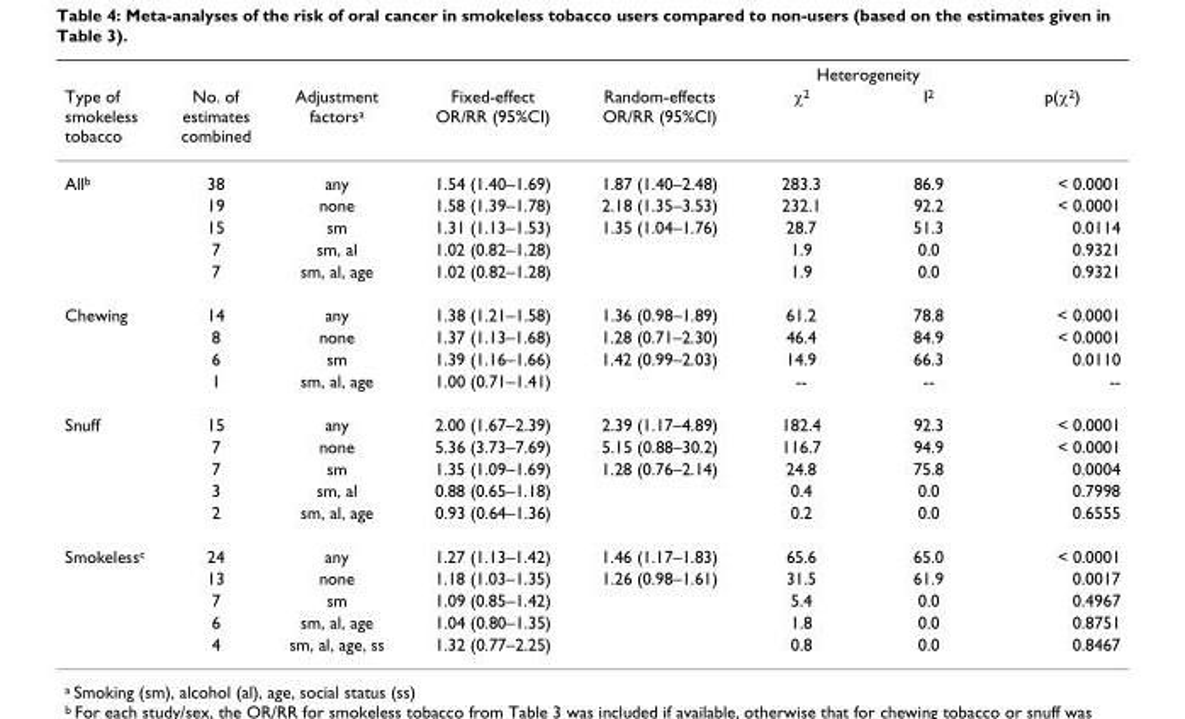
<table><thead><tr><td rowspan="2">Type of smokeless tobacco</td><td rowspan="2">No. of estimates combined</td><td rowspan="2">Adjustment factors<sup>a</sup></td><td rowspan="2">Fixed-effect OR/RR (95%CI)</td><td rowspan="2">Random-effects OR/RR (95%CI)</td><td colspan="2">Heterogeneity</td><td rowspan="2">p(χ<sup>2</sup>)</td></tr><tr><td>χ<sup>2</sup></td><td>I<sup>2</sup></td></tr></thead><tbody><tr><td rowspan="5">All<sup>b</sup></td><td>38</td><td>any</td><td>1.54 (1.40–1.69)</td><td>1.87 (1.40–2.48)</td><td>283.3</td><td>86.9</td><td>&lt; 0.0001</td></tr><tr><td>19</td><td>none</td><td>1.58 (1.39–1.78)</td><td>2.18 (1.35–3.53)</td><td>232.1</td><td>92.2</td><td>&lt; 0.0001</td></tr><tr><td>15</td><td>sm</td><td>1.31 (1.13–1.53)</td><td>1.35 (1.04–1.76)</td><td>28.7</td><td>51.3</td><td>0.0114</td></tr><tr><td>7</td><td>sm, al</td><td>1.02 (0.82–1.28)</td><td></td><td>1.9</td><td>0.0</td><td>0.9321</td></tr><tr><td>7</td><td>sm, al, age</td><td>1.02 (0.82–1.28)</td><td></td><td>1.9</td><td>0.0</td><td>0.9321</td></tr><tr><td rowspan="4">Chewing</td><td>14</td><td>any</td><td>1.38 (1.21–1.58)</td><td>1.36 (0.98–1.89)</td><td>61.2</td><td>78.8</td><td>&lt; 0.0001</td></tr><tr><td>8</td><td>none</td><td>1.37 (1.13–1.68)</td><td>1.28 (0.71–2.30)</td><td>46.4</td><td>84.9</td><td>&lt; 0.0001</td></tr><tr><td>6</td><td>sm</td><td>1.39 (1.16–1.66)</td><td>1.42 (0.99–2.03)</td><td>14.9</td><td>66.3</td><td>0.0110</td></tr><tr><td>1</td><td>sm, al, age</td><td>1.00 (0.71–1.41)</td><td></td><td>--</td><td>--</td><td>--</td></tr><tr><td rowspan="5">Snuff</td><td>15</td><td>any</td><td>2.00 (1.67–2.39)</td><td>2.39 (1.17–4.89)</td><td>182.4</td><td>92.3</td><td>&lt; 0.0001</td></tr><tr><td>7</td><td>none</td><td>5.36 (3.73–7.69)</td><td>5.15 (0.88–30.2)</td><td>116.7</td><td>94.9</td><td>&lt; 0.0001</td></tr><tr><td>7</td><td>sm</td><td>1.35 (1.09–1.69)</td><td>1.28 (0.76–2.14)</td><td>24.8</td><td>75.8</td><td>0.0004</td></tr><tr><td>3</td><td>sm, al</td><td>0.88 (0.65–1.18)</td><td></td><td>0.4</td><td>0.0</td><td>0.7998</td></tr><tr><td>2</td><td>sm, al, age</td><td>0.93 (0.64–1.36)</td><td></td><td>0.2</td><td>0.0</td><td>0.6555</td></tr><tr><td rowspan="5">Smokeless<sup>c</sup></td><td>24</td><td>any</td><td>1.27 (1.13–1.42)</td><td>1.46 (1.17–1.83)</td><td>65.6</td><td>65.0</td><td>&lt; 0.0001</td></tr><tr><td>13</td><td>none</td><td>1.18 (1.03–1.35)</td><td>1.26 (0.98–1.61)</td><td>31.5</td><td>61.9</td><td>0.0017</td></tr><tr><td>7</td><td>sm</td><td>1.09 (0.85–1.42)</td><td></td><td>5.4</td><td>0.0</td><td>0.4967</td></tr><tr><td>6</td><td>sm, al, age</td><td>1.04 (0.80–1.35)</td><td></td><td>1.8</td><td>0.0</td><td>0.8751</td></tr><tr><td>4</td><td>sm, al, age, ss</td><td>1.32 (0.77–2.25)</td><td></td><td>0.8</td><td>0.0</td><td>0.8467</td></tr></tbody></table>